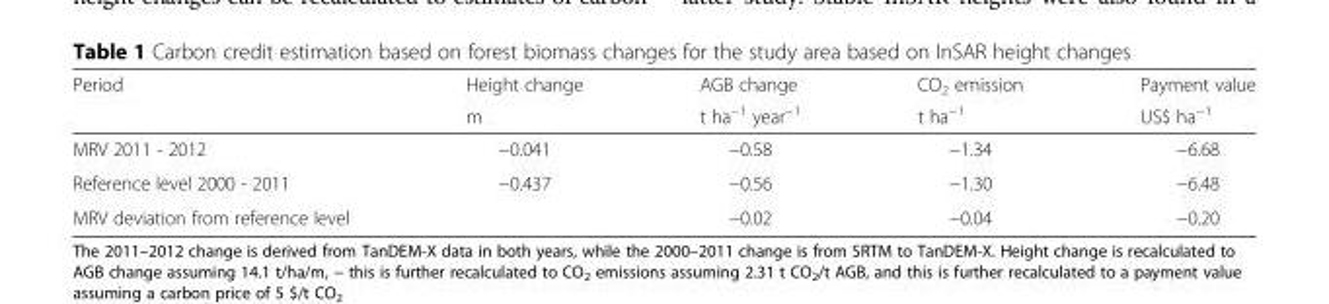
<table><thead><tr><td rowspan="2">Period</td><td rowspan="2">Height change m</td><td rowspan="2">AGB change t ha<sup>−1</sup> year<sup>−1</sup></td><td rowspan="2">CO<sub>2</sub> emission t ha<sup>−1</sup></td><td rowspan="2">Payment value US$ ha<sup>−1</sup></td></tr><tr></tr></thead><tbody><tr><td>MRV 2011 - 2012</td><td>−0.041</td><td>−0.58</td><td>−1.34</td><td>−6.68</td></tr><tr><td>Reference level 2000 - 2011</td><td>−0.437</td><td>−0.56</td><td>−1.30</td><td>−6.48</td></tr><tr><td>MRV deviation from reference level</td><td></td><td>−0.02</td><td>−0.04</td><td>−0.20</td></tr></tbody></table>